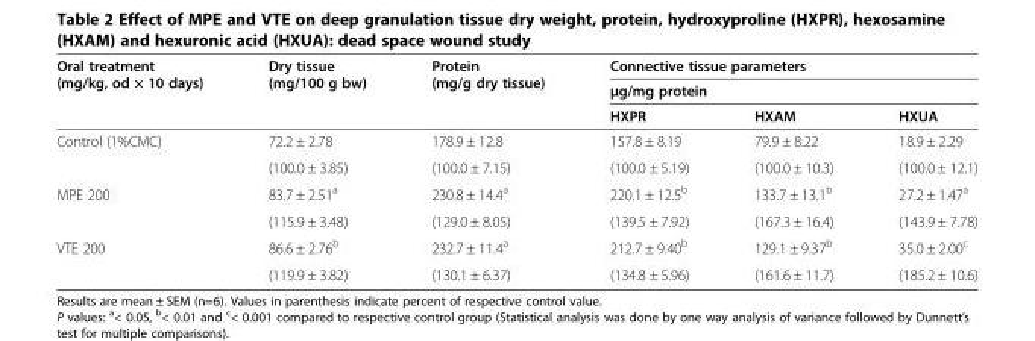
<table><thead><tr><td rowspan="3">Oral treatment (mg/kg, od × 10 days)</td><td rowspan="3">Dry tissue (mg/100 g bw)</td><td rowspan="3">Protein (mg/g dry tissue)</td><td rowspan="2" colspan="3">Connective tissue parameters μg/mg protein</td></tr><tr></tr><tr><td>HXPR</td><td>HXAM</td><td>HXUA</td></tr></thead><tbody><tr><td rowspan="2">Control (1%CMC)</td><td>72.2 ± 2.78</td><td>178.9 ± 12.8</td><td>157.8 ± 8.19</td><td>79.9 ± 8.22</td><td>18.9 ± 2.29</td></tr><tr><td>(100.0 ± 3.85)</td><td>(100.0 ± 7.15)</td><td>(100.0 ± 5.19)</td><td>(100.0 ± 10.3)</td><td>(100.0 ± 12.1)</td></tr><tr><td rowspan="2">MPE 200</td><td>83.7 ± 2.51<sup>a</sup></td><td>230.8 ± 14.4<sup>a</sup></td><td>220.1 ± 12.5<sup>b</sup></td><td>133.7 ± 13.1<sup>b</sup></td><td>27.2 ± 1.47<sup>a</sup></td></tr><tr><td>(115.9 ± 3.48)</td><td>(129.0 ± 8.05)</td><td>(139.5 ± 7.92)</td><td>(167.3 ± 16.4)</td><td>(143.9 ± 7.78)</td></tr><tr><td rowspan="2">VTE 200</td><td>86.6 ± 2.76<sup>b</sup></td><td>232.7 ± 11.4<sup>a</sup></td><td>212.7 ± 9.40<sup>b</sup></td><td>129.1 ± 9.37<sup>b</sup></td><td>35.0 ± 2.00<sup>c</sup></td></tr><tr><td>(119.9 ± 3.82)</td><td>(130.1 ± 6.37)</td><td>(134.8 ± 5.96)</td><td>(161.6 ± 11.7)</td><td>(185.2 ± 10.6)</td></tr></tbody></table>